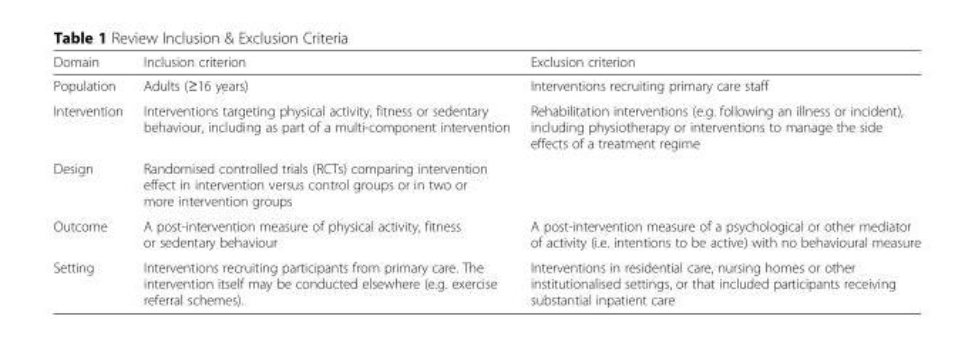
<table><thead><tr><td>Domain</td><td>Inclusion criterion</td><td>Exclusion criterion</td></tr></thead><tbody><tr><td>Population</td><td>Adults (≥16 years)</td><td>Interventions recruiting primary care staff</td></tr><tr><td>Intervention</td><td>Interventions targeting physical activity, fitness or sedentary behaviour, including as part of a multi-component intervention</td><td>Rehabilitation interventions (e.g. following an illness or incident), including physiotherapy or interventions to manage the side effects of a treatment regime</td></tr><tr><td>Design</td><td>Randomised controlled trials (RCTs) comparing intervention effect in intervention versus control groups or in two or more intervention groups</td><td></td></tr><tr><td>Outcome</td><td>A post-intervention measure of physical activity, fitness or sedentary behaviour</td><td>A post-intervention measure of a psychological or other mediator of activity (i.e. intentions to be active) with no behavioural measure</td></tr><tr><td>Setting</td><td>Interventions recruiting participants from primary care. The intervention itself may be conducted elsewhere (e.g. exercise referral schemes).</td><td>Interventions in residential care, nursing homes or other institutionalised settings, or that included participants receiving substantial inpatient care</td></tr></tbody></table>